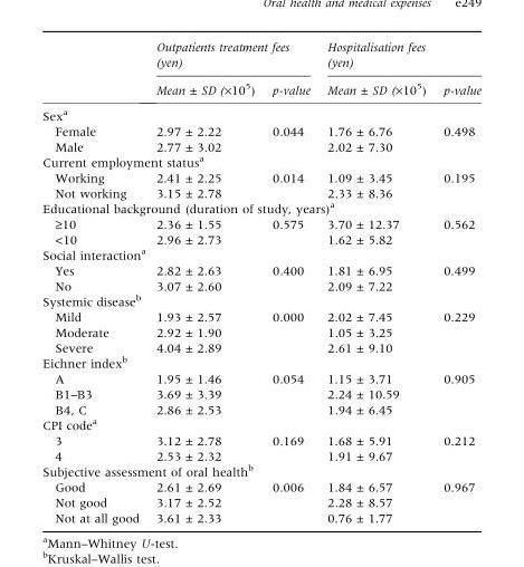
<table><thead><tr><td rowspan="2"></td><td colspan="2">Outpatients treatment fees (yen)</td><td colspan="2">Hospitalisation fees (yen)</td></tr><tr><td>Mean ± SD (×10<sup>5</sup>)</td><td>p-value</td><td>Mean ± SD (×10<sup>5</sup>)</td><td>p-value</td></tr></thead><tbody><tr><td colspan="5">Sex<sup>a</sup></td></tr><tr><td>Female</td><td>2.97 ± 2.22</td><td rowspan="2">0.044</td><td>1.76 ± 6.76</td><td rowspan="2">0.498</td></tr><tr><td>Male</td><td>2.77 ± 3.02</td><td>2.02 ± 7.30</td></tr><tr><td colspan="5">Current employment status<sup>a</sup></td></tr><tr><td>Working</td><td>2.41 ± 2.25</td><td rowspan="2">0.014</td><td>1.09 ± 3.45</td><td rowspan="2">0.195</td></tr><tr><td>Not working</td><td>3.15 ± 2.78</td><td>2.33 ± 8.36</td></tr><tr><td colspan="5">Educational background (duration of study, years)<sup>a</sup></td></tr><tr><td>‡10</td><td>2.36 ± 1.55</td><td rowspan="2">0.575</td><td>3.70 ± 12.37</td><td rowspan="2">0.562</td></tr><tr><td>&lt;10</td><td>2.96 ± 2.73</td><td>1.62 ± 5.82</td></tr><tr><td colspan="5">Social interaction<sup>a</sup></td></tr><tr><td>Yes</td><td>2.82 ± 2.63</td><td rowspan="2">0.400</td><td>1.81 ± 6.95</td><td rowspan="2">0.499</td></tr><tr><td>No</td><td>3.07 ± 2.60</td><td>2.09 ± 7.22</td></tr><tr><td colspan="5">Systemic disease<sup>b</sup></td></tr><tr><td>Mild</td><td>1.93 ± 2.57</td><td rowspan="3">0.000</td><td>2.02 ± 7.45</td><td rowspan="3">0.229</td></tr><tr><td>Moderate</td><td>2.92 ± 1.90</td><td>1.05 ± 3.25</td></tr><tr><td>Severe</td><td>4.04 ± 2.89</td><td>2.61 ± 9.10</td></tr><tr><td colspan="5">Eichner index<sup>b</sup></td></tr><tr><td>A</td><td>1.95 ± 1.46</td><td rowspan="3">0.054</td><td>1.15 ± 3.71</td><td rowspan="3">0.905</td></tr><tr><td>B1–B3</td><td>3.69 ± 3.39</td><td>2.24 ± 10.59</td></tr><tr><td>B4, C</td><td>2.86 ± 2.53</td><td>1.94 ± 6.45</td></tr><tr><td colspan="5">CPI code<sup>a</sup></td></tr><tr><td>3</td><td>3.12 ± 2.78</td><td rowspan="2">0.169</td><td>1.68 ± 5.91</td><td rowspan="2">0.212</td></tr><tr><td>4</td><td>2.53 ± 2.32</td><td>1.91 ± 9.67</td></tr><tr><td colspan="5">Subjective assessment of oral health<sup>b</sup></td></tr><tr><td>Good</td><td>2.61 ± 2.69</td><td rowspan="3">0.006</td><td>1.84 ± 6.57</td><td rowspan="3">0.967</td></tr><tr><td>Not good</td><td>3.17 ± 2.52</td><td>2.28 ± 8.57</td></tr><tr><td>Not at all good</td><td>3.61 ± 2.33</td><td>0.76 ± 1.77</td></tr></tbody></table>